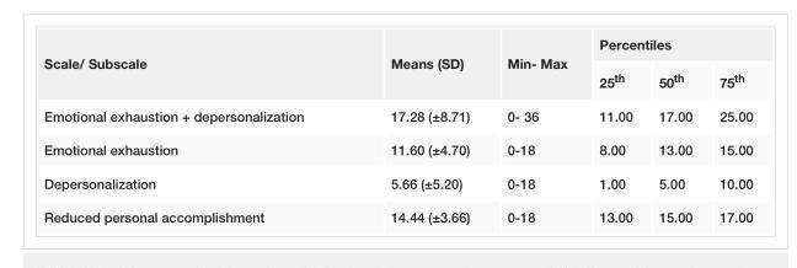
<table><tbody><tr><td rowspan="2">Scale/ Subscale</td><td rowspan="2">Means (SD)</td><td rowspan="2">Min- Max</td><td colspan="3">Percentiles</td></tr><tr><td>25<sup>th</sup></td><td>50<sup>th</sup></td><td>75<sup>th</sup></td></tr><tr><td>Emotional exhaustion + depersonalization</td><td>17.28 (±8.71)</td><td>0- 36</td><td>11.00</td><td>17.00</td><td>25.00</td></tr><tr><td>Emotional exhaustion</td><td>11.60 (±4.70)</td><td>0-18</td><td>8.00</td><td>13.00</td><td>15.00</td></tr><tr><td>Depersonalization</td><td>5.66 (±5.20)</td><td>0-18</td><td>1.00</td><td>5.00</td><td>10.00</td></tr><tr><td>Reduced personal accomplishment</td><td>14.44 (±3.66)</td><td>0-18</td><td>13.00</td><td>15.00</td><td>17.00</td></tr></tbody></table>